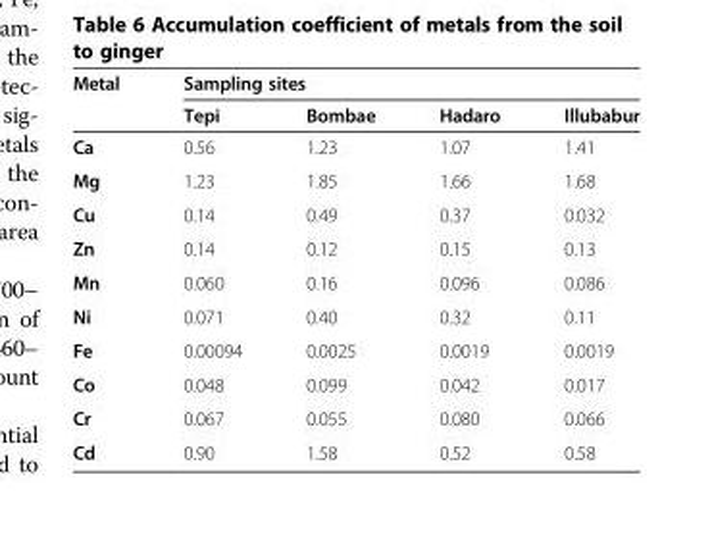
<table><thead><tr><td rowspan="2">Metal</td><td colspan="4">Sampling sites</td></tr><tr><td>Tepi</td><td>Bombae</td><td>Hadaro</td><td>Illubabur</td></tr></thead><tbody><tr><td>Ca</td><td>0.56</td><td>1.23</td><td>1.07</td><td>1.41</td></tr><tr><td>Mg</td><td>1.23</td><td>1.85</td><td>1.66</td><td>1.68</td></tr><tr><td>Cu</td><td>0.14</td><td>0.49</td><td>0.37</td><td>0.032</td></tr><tr><td>Zn</td><td>0.14</td><td>0.12</td><td>0.15</td><td>0.13</td></tr><tr><td>Mn</td><td>0.060</td><td>0.16</td><td>0.096</td><td>0.086</td></tr><tr><td>Ni</td><td>0.071</td><td>0.40</td><td>0.32</td><td>0.11</td></tr><tr><td>Fe</td><td>0.00094</td><td>0.0025</td><td>0.0019</td><td>0.0019</td></tr><tr><td>Co</td><td>0.048</td><td>0.099</td><td>0.042</td><td>0.017</td></tr><tr><td>Cr</td><td>0.067</td><td>0.055</td><td>0.080</td><td>0.066</td></tr><tr><td>Cd</td><td>0.90</td><td>1.58</td><td>0.52</td><td>0.58</td></tr></tbody></table>